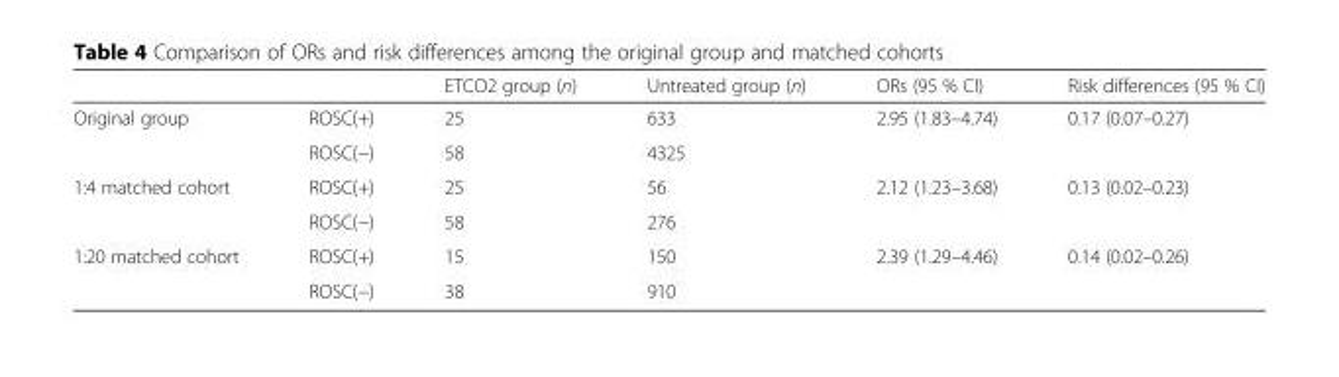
<table><thead><tr><td></td><td></td><td>ETCO2 group (n)</td><td>Untreated group (n)</td><td>ORs (95 % CI)</td><td>Risk differences (95 % CI)</td></tr></thead><tbody><tr><td rowspan="2">Original group</td><td>ROSC(+)</td><td>25</td><td>633</td><td rowspan="2">2.95 (1.83–4.74)</td><td rowspan="2">0.17 (0.07–0.27)</td></tr><tr><td>ROSC(−)</td><td>58</td><td>4325</td></tr><tr><td rowspan="2">1:4 matched cohort</td><td>ROSC(+)</td><td>25</td><td>56</td><td rowspan="2">2.12 (1.23–3.68)</td><td rowspan="2">0.13 (0.02–0.23)</td></tr><tr><td>ROSC(−)</td><td>58</td><td>276</td></tr><tr><td rowspan="2">1:20 matched cohort</td><td>ROSC(+)</td><td>15</td><td>150</td><td rowspan="2">2.39 (1.29–4.46)</td><td rowspan="2">0.14 (0.02–0.26)</td></tr><tr><td>ROSC(−)</td><td>38</td><td>910</td></tr></tbody></table>